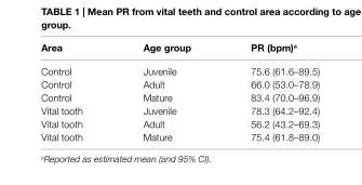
<table><thead><tr><td>area</td><td>age group</td><td>Pr (bpm)<sup>a</sup></td></tr></thead><tbody><tr><td>Control</td><td>Juvenile</td><td>75.6 (61.6–89.5)</td></tr><tr><td>Control</td><td>Adult</td><td>66.0 (53.0–78.9)</td></tr><tr><td>Control</td><td>Mature</td><td>83.4 (70.0–96.9)</td></tr><tr><td>Vital tooth</td><td>Juvenile</td><td>78.3 (64.2–92.4)</td></tr><tr><td>Vital tooth</td><td>Adult</td><td>56.2 (43.2–69.3)</td></tr><tr><td>Vital tooth</td><td>Mature</td><td>75.4 (61.8–89.0)</td></tr></tbody></table>